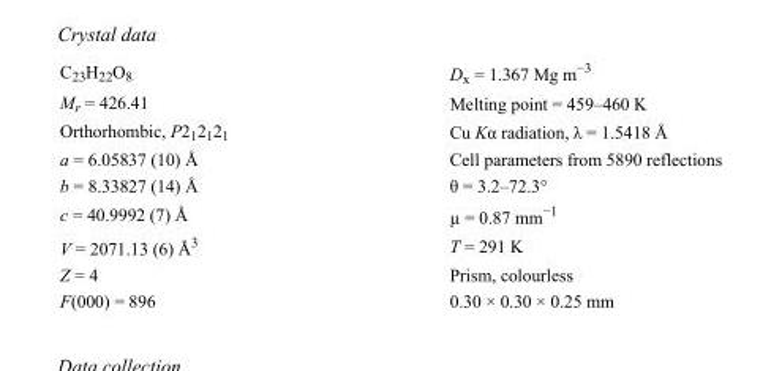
<table><tbody><tr><td>C<sub>23</sub>H<sub>22</sub>O<sub>8</sub></td><td>D<sub>x</sub> = 1.367 Mg m<sup>−3</sup></td></tr><tr><td>M<sub>r</sub> = 426.41</td><td>Melting point = 459–460 K</td></tr><tr><td>Orthorhombic, P2<sub>1</sub>2<sub>1</sub>2<sub>1</sub></td><td>Cu Kα radiation, λ = 1.5418 Å</td></tr><tr><td>a = 6.05837 (10) Å</td><td>Cell parameters from 5890 reflections</td></tr><tr><td>b = 8.33827 (14) Å</td><td>θ = 3.2–72.3°</td></tr><tr><td>c = 40.9992 (7) Å</td><td>µ = 0.87 mm<sup>−1</sup></td></tr><tr><td>V = 2071.13 (6) Å<sup>3</sup></td><td>T = 291 K</td></tr><tr><td>Z = 4</td><td>Prism, colourless</td></tr><tr><td>F(000) = 896</td><td>0.30 × 0.30 × 0.25 mm</td></tr></tbody></table>